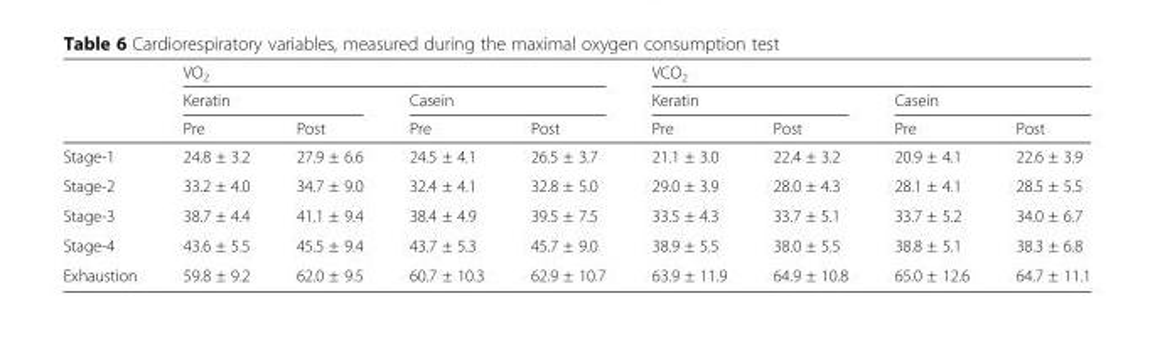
<table><thead><tr><td rowspan="3"></td><td colspan="4">VO<sub>2</sub></td><td colspan="4">VCO<sub>2</sub></td></tr><tr><td colspan="2">Keratin</td><td colspan="2">Casein</td><td colspan="2">Keratin</td><td colspan="2">Casein</td></tr><tr><td>Pre</td><td>Post</td><td>Pre</td><td>Post</td><td>Pre</td><td>Post</td><td>Pre</td><td>Post</td></tr></thead><tbody><tr><td>Stage-1</td><td>24.8 ± 3.2</td><td>27.9 ± 6.6</td><td>24.5 ± 4.1</td><td>26.5 ± 3.7</td><td>21.1 ± 3.0</td><td>22.4 ± 3.2</td><td>20.9 ± 4.1</td><td>22.6 ± 3.9</td></tr><tr><td>Stage-2</td><td>33.2 ± 4.0</td><td>34.7 ± 9.0</td><td>32.4 ± 4.1</td><td>32.8 ± 5.0</td><td>29.0 ± 3.9</td><td>28.0 ± 4.3</td><td>28.1 ± 4.1</td><td>28.5 ± 5.5</td></tr><tr><td>Stage-3</td><td>38.7 ± 4.4</td><td>41.1 ± 9.4</td><td>38.4 ± 4.9</td><td>39.5 ± 7.5</td><td>33.5 ± 4.3</td><td>33.7 ± 5.1</td><td>33.7 ± 5.2</td><td>34.0 ± 6.7</td></tr><tr><td>Stage-4</td><td>43.6 ± 5.5</td><td>45.5 ± 9.4</td><td>43.7 ± 5.3</td><td>45.7 ± 9.0</td><td>38.9 ± 5.5</td><td>38.0 ± 5.5</td><td>38.8 ± 5.1</td><td>38.3 ± 6.8</td></tr><tr><td>Exhaustion</td><td>59.8 ± 9.2</td><td>62.0 ± 9.5</td><td>60.7 ± 10.3</td><td>62.9 ± 10.7</td><td>63.9 ± 11.9</td><td>64.9 ± 10.8</td><td>65.0 ± 12.6</td><td>64.7 ± 11.1</td></tr></tbody></table>